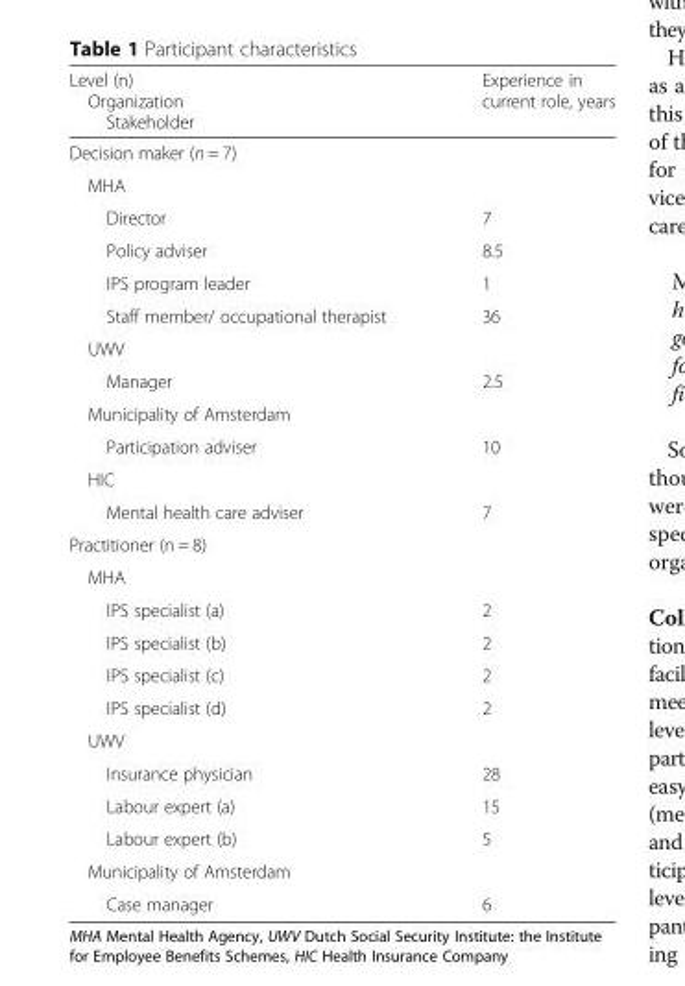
<table><thead><tr><td>Level (n) Organization Stakeholder</td><td>Experience in current role, years</td></tr></thead><tbody><tr><td colspan="2">Decision maker (n = 7)</td></tr><tr><td colspan="2">MHA</td></tr><tr><td>Director</td><td>7</td></tr><tr><td>Policy adviser</td><td>8.5</td></tr><tr><td>IPS program leader</td><td>1</td></tr><tr><td>Staff member/ occupational therapist</td><td>36</td></tr><tr><td colspan="2">UWV</td></tr><tr><td>Manager</td><td>2.5</td></tr><tr><td colspan="2">Municipality of Amsterdam</td></tr><tr><td>Participation adviser</td><td>10</td></tr><tr><td colspan="2">HIC</td></tr><tr><td>Mental health care adviser</td><td>7</td></tr><tr><td colspan="2">Practitioner (n = 8)</td></tr><tr><td colspan="2">MHA</td></tr><tr><td>IPS specialist (a)</td><td>2</td></tr><tr><td>IPS specialist (b)</td><td>2</td></tr><tr><td>IPS specialist (c)</td><td>2</td></tr><tr><td>IPS specialist (d)</td><td>2</td></tr><tr><td colspan="2">UWV</td></tr><tr><td>Insurance physician</td><td>28</td></tr><tr><td>Labour expert (a)</td><td>15</td></tr><tr><td>Labour expert (b)</td><td>5</td></tr><tr><td colspan="2">Municipality of Amsterdam</td></tr><tr><td>Case manager</td><td>6</td></tr></tbody></table>